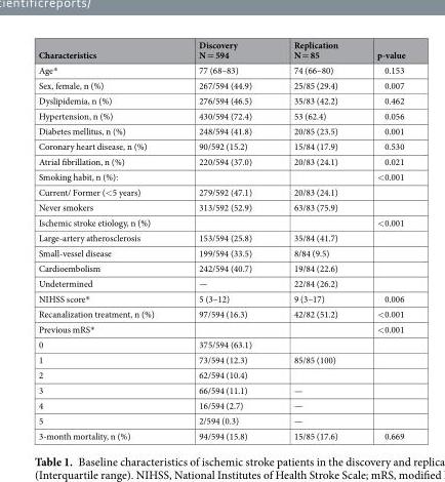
<table><thead><tr><td>Characteristics</td><td>Discovery N = 594</td><td>Replication N = 85</td><td>p-value</td></tr></thead><tbody><tr><td>Age*</td><td>77 (68–83)</td><td>74 (66–80)</td><td>0.153</td></tr><tr><td>Sex, female, n (%)</td><td>267/594 (44.9)</td><td>25/85 (29.4)</td><td>0.007</td></tr><tr><td>Dyslipidemia, n (%)</td><td>276/594 (46.5)</td><td>35/83 (42.2)</td><td>0.462</td></tr><tr><td>Hypertension, n (%)</td><td>430/594 (72.4)</td><td>53 (62.4)</td><td>0.056</td></tr><tr><td>Diabetes mellitus, n (%)</td><td>248/594 (41.8)</td><td>20/85 (23.5)</td><td>0.001</td></tr><tr><td>Coronary heart disease, n (%)</td><td>90/592 (15.2)</td><td>15/84 (17.9)</td><td>0.530</td></tr><tr><td>Atrial fibrillation, n (%)</td><td>220/594 (37.0)</td><td>20/83 (24.1)</td><td>0.021</td></tr><tr><td>Smoking habit, n (%):</td><td></td><td></td><td>&lt;0.001</td></tr><tr><td>Current/ Former (&lt;5 years)</td><td>279/592 (47.1)</td><td>20/83 (24.1)</td><td></td></tr><tr><td>Never smokers</td><td>313/592 (52.9)</td><td>63/83 (75.9)</td><td></td></tr><tr><td>Ischemic stroke etiology, n (%)</td><td></td><td></td><td>&lt;0.001</td></tr><tr><td>Large-artery atherosclerosis</td><td>153/594 (25.8)</td><td>35/84 (41.7)</td><td></td></tr><tr><td>Small-vessel disease</td><td>199/594 (33.5)</td><td>8/84 (9.5)</td><td></td></tr><tr><td>Cardioembolism</td><td>242/594 (40.7)</td><td>19/84 (22.6)</td><td></td></tr><tr><td>Undetermined</td><td>—</td><td>22/84 (26.2)</td><td></td></tr><tr><td>NIHSS score*</td><td>5 (3–12)</td><td>9 (3–17)</td><td>0.006</td></tr><tr><td>Recanalization treatment, n (%)</td><td>97/594 (16.3)</td><td>42/82 (51.2)</td><td>&lt;0.001</td></tr><tr><td>Previous mRS*</td><td></td><td></td><td>&lt;0.001</td></tr><tr><td>0</td><td>375/594 (63.1)</td><td></td><td></td></tr><tr><td>1</td><td>73/594 (12.3)</td><td>85/85 (100)</td><td></td></tr><tr><td>2</td><td>62/594 (10.4)</td><td></td><td></td></tr><tr><td>3</td><td>66/594 (11.1)</td><td>—</td><td></td></tr><tr><td>4</td><td>16/594 (2.7)</td><td>—</td><td></td></tr><tr><td>5</td><td>2/594 (0.3)</td><td>—</td><td></td></tr><tr><td>3-month mortality, n (%)</td><td>94/594 (15.8)</td><td>15/85 (17.6)</td><td>0.669</td></tr></tbody></table>